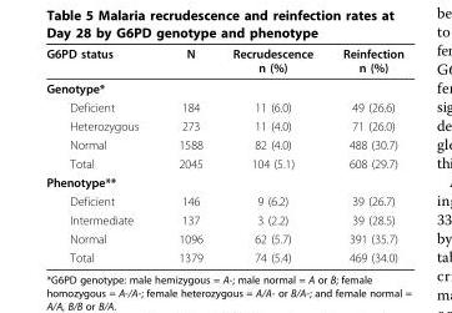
<table><thead><tr><td>G6PD status</td><td>N</td><td>Recrudescence n (%)</td><td>Reinfection n (%)</td></tr></thead><tbody><tr><td colspan="4">Genotype*</td></tr><tr><td>Deficient</td><td>184</td><td>11 (6.0)</td><td>49 (26.6)</td></tr><tr><td>Heterozygous</td><td>273</td><td>11 (4.0)</td><td>71 (26.0)</td></tr><tr><td>Normal</td><td>1588</td><td>82 (4.0)</td><td>488 (30.7)</td></tr><tr><td>Total</td><td>2045</td><td>104 (5.1)</td><td>608 (29.7)</td></tr><tr><td colspan="4">Phenotype**</td></tr><tr><td>Deficient</td><td>146</td><td>9 (6.2)</td><td>39 (26.7)</td></tr><tr><td>Intermediate</td><td>137</td><td>3 (2.2)</td><td>39 (28.5)</td></tr><tr><td>Normal</td><td>1096</td><td>62 (5.7)</td><td>391 (35.7)</td></tr><tr><td>Total</td><td>1379</td><td>74 (5.4)</td><td>469 (34.0)</td></tr></tbody></table>